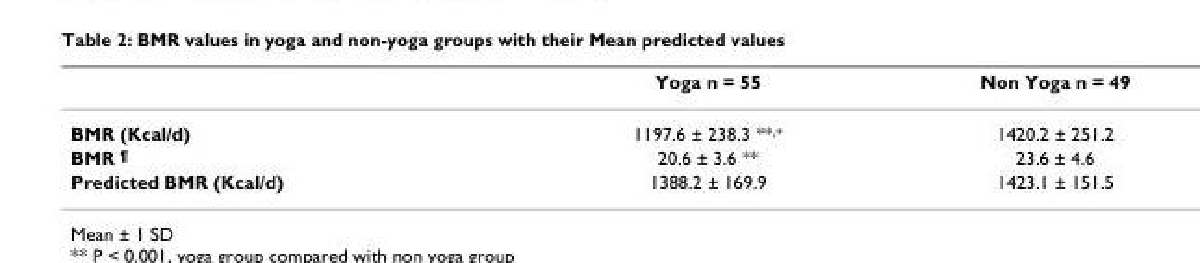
<table><thead><tr><td></td><td>Yoga n = 55</td><td>Non Yoga n = 49</td></tr></thead><tbody><tr><td>BMR (Kcal/d)</td><td>1197.6 ± 238.3 **<sup>,+</sup></td><td>1420.2 ± 251.2</td></tr><tr><td>BMR <sup>¶</sup></td><td>20.6 ± 3.6 **</td><td>23.6 ± 4.6</td></tr><tr><td>Predicted BMR (Kcal/d)</td><td>1388.2 ± 169.9</td><td>1423.1 ± 151.5</td></tr></tbody></table>